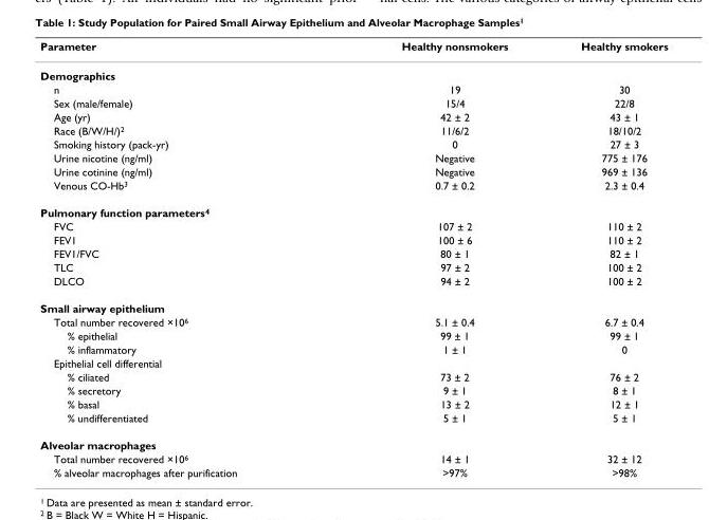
<table><thead><tr><td>Parameter</td><td>Healthy nonsmokers</td><td>Healthy smokers</td></tr></thead><tbody><tr><td colspan="3">Demographics</td></tr><tr><td>n</td><td>19</td><td>30</td></tr><tr><td>Sex (male/female)</td><td>15/4</td><td>22/8</td></tr><tr><td>Age (yr)</td><td>42 ± 2</td><td>43 ± 1</td></tr><tr><td>Race (B/W/H/)<sup>2</sup></td><td>11/6/2</td><td>18/10/2</td></tr><tr><td>Smoking history (pack-yr)</td><td>0</td><td>27 ± 3</td></tr><tr><td>Urine nicotine (ng/ml)</td><td>Negative</td><td>775 ± 176</td></tr><tr><td>Urine cotinine (ng/ml)</td><td>Negative</td><td>969 ± 136</td></tr><tr><td>Venous CO-Hb<sup>3</sup></td><td>0.7 ± 0.2</td><td>2.3 ± 0.4</td></tr><tr><td colspan="3">Pulmonary function parameters<sup>4</sup></td></tr><tr><td>FVC</td><td>107 ± 2</td><td>110 ± 2</td></tr><tr><td>FEV1</td><td>100 ± 6</td><td>110 ± 2</td></tr><tr><td>FEV1/FVC</td><td>80 ± 1</td><td>82 ± 1</td></tr><tr><td>TLC</td><td>97 ± 2</td><td>100 ± 2</td></tr><tr><td>DLCO</td><td>94 ± 2</td><td>100 ± 2</td></tr><tr><td colspan="3">Small airway epithelium</td></tr><tr><td>Total number recovered ×10<sup>6</sup></td><td>5.1 ± 0.4</td><td>6.7 ± 0.4</td></tr><tr><td>% epithelial</td><td>99 ± 1</td><td>99 ± 1</td></tr><tr><td>% inflammatory</td><td>1 ± 1</td><td>0</td></tr><tr><td colspan="3">Epithelial cell differential</td></tr><tr><td>% ciliated</td><td>73 ± 2</td><td>76 ± 2</td></tr><tr><td>% secretory</td><td>9 ± 1</td><td>8 ± 1</td></tr><tr><td>% basal</td><td>13 ± 2</td><td>12 ± 1</td></tr><tr><td>% undifferentiated</td><td>5 ± 1</td><td>5 ± 1</td></tr><tr><td colspan="3">Alveolar macrophages</td></tr><tr><td>Total number recovered ×10<sup>6</sup></td><td>14 ± 1</td><td>32 ± 12</td></tr><tr><td>% alveolar macrophages after purification</td><td>&gt;97%</td><td>&gt;98%</td></tr></tbody></table>